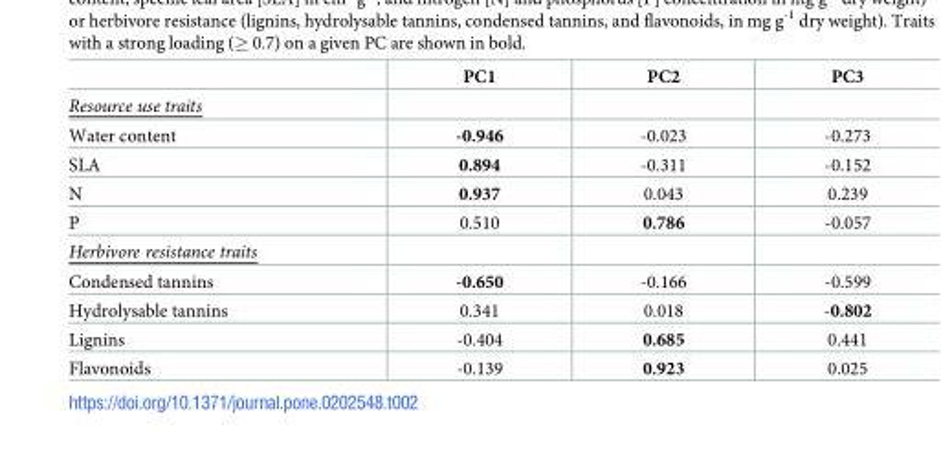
<table><thead><tr><td></td><td>PC1</td><td>PC2</td><td>PC3</td></tr></thead><tbody><tr><td colspan="4">Resource use traits</td></tr><tr><td>Water content</td><td>-0.946</td><td>-0.023</td><td>-0.273</td></tr><tr><td>SLA</td><td>0.894</td><td>-0.311</td><td>-0.152</td></tr><tr><td>N</td><td>0.937</td><td>0.043</td><td>0.239</td></tr><tr><td>P</td><td>0.510</td><td>0.786</td><td>-0.057</td></tr><tr><td colspan="4">Herbivore resistance traits</td></tr><tr><td>Condensed tannins</td><td>-0.650</td><td>-0.166</td><td>-0.599</td></tr><tr><td>Hydrolysable tannins</td><td>0.341</td><td>0.018</td><td>-0.802</td></tr><tr><td>Lignins</td><td>-0.404</td><td>0.685</td><td>0.441</td></tr><tr><td>Flavonoids</td><td>-0.139</td><td>0.923</td><td>0.025</td></tr></tbody></table>